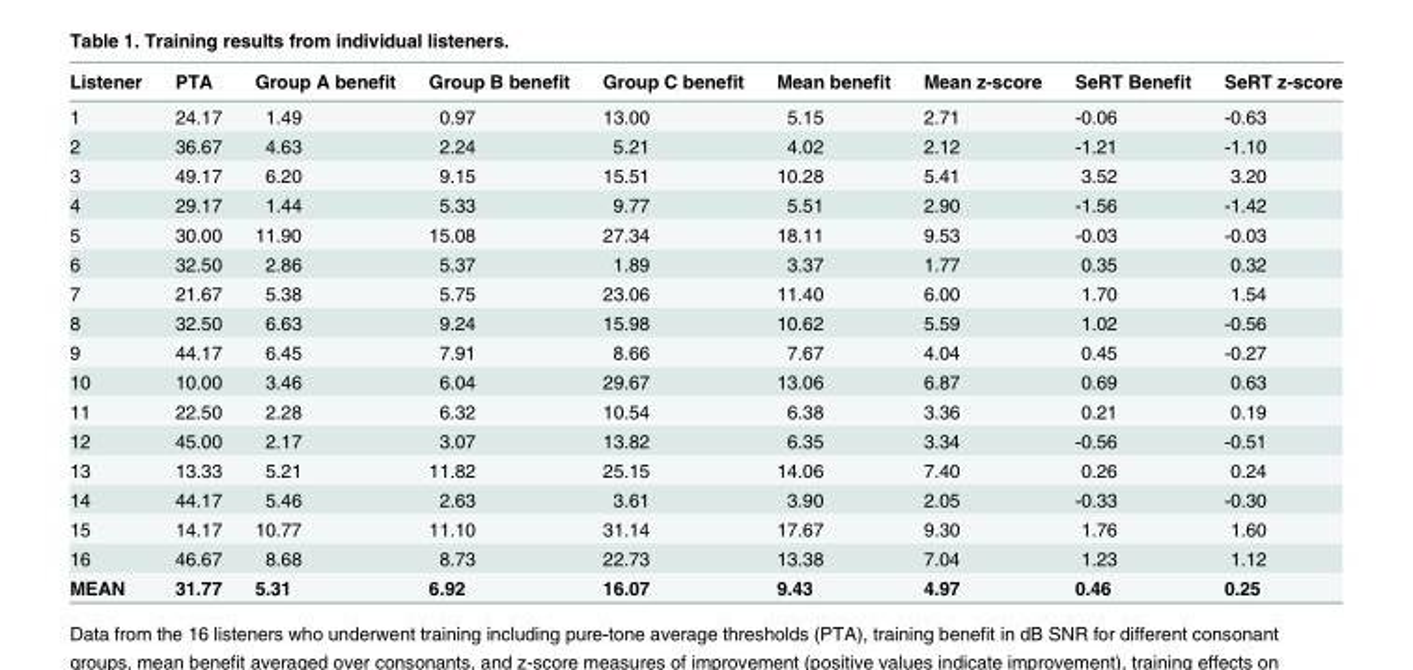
<table><thead><tr><td>Listener</td><td>PTA</td><td>Group A benefit</td><td>Group B benefit</td><td>Group C benefit</td><td>Mean benefit</td><td>Mean z-score</td><td>SeRT Benefit</td><td>SeRT z-score</td></tr></thead><tbody><tr><td>1</td><td>24.17</td><td>1.49</td><td>0.97</td><td>13.00</td><td>5.15</td><td>2.71</td><td>-0.06</td><td>-0.63</td></tr><tr><td>2</td><td>36.67</td><td>4.63</td><td>2.24</td><td>5.21</td><td>4.02</td><td>2.12</td><td>-1.21</td><td>-1.10</td></tr><tr><td>3</td><td>49.17</td><td>6.20</td><td>9.15</td><td>15.51</td><td>10.28</td><td>5.41</td><td>3.52</td><td>3.20</td></tr><tr><td>4</td><td>29.17</td><td>1.44</td><td>5.33</td><td>9.77</td><td>5.51</td><td>2.90</td><td>-1.56</td><td>-1.42</td></tr><tr><td>5</td><td>30.00</td><td>11.90</td><td>15.08</td><td>27.34</td><td>18.11</td><td>9.53</td><td>-0.03</td><td>-0.03</td></tr><tr><td>6</td><td>32.50</td><td>2.86</td><td>5.37</td><td>1.89</td><td>3.37</td><td>1.77</td><td>0.35</td><td>0.32</td></tr><tr><td>7</td><td>21.67</td><td>5.38</td><td>5.75</td><td>23.06</td><td>11.40</td><td>6.00</td><td>1.70</td><td>1.54</td></tr><tr><td>8</td><td>32.50</td><td>6.63</td><td>9.24</td><td>15.98</td><td>10.62</td><td>5.59</td><td>1.02</td><td>-0.56</td></tr><tr><td>9</td><td>44.17</td><td>6.45</td><td>7.91</td><td>8.66</td><td>7.67</td><td>4.04</td><td>0.45</td><td>-0.27</td></tr><tr><td>10</td><td>10.00</td><td>3.46</td><td>6.04</td><td>29.67</td><td>13.06</td><td>6.87</td><td>0.69</td><td>0.63</td></tr><tr><td>11</td><td>22.50</td><td>2.28</td><td>6.32</td><td>10.54</td><td>6.38</td><td>3.36</td><td>0.21</td><td>0.19</td></tr><tr><td>12</td><td>45.00</td><td>2.17</td><td>3.07</td><td>13.82</td><td>6.35</td><td>3.34</td><td>-0.56</td><td>-0.51</td></tr><tr><td>13</td><td>13.33</td><td>5.21</td><td>11.82</td><td>25.15</td><td>14.06</td><td>7.40</td><td>0.26</td><td>0.24</td></tr><tr><td>14</td><td>44.17</td><td>5.46</td><td>2.63</td><td>3.61</td><td>3.90</td><td>2.05</td><td>-0.33</td><td>-0.30</td></tr><tr><td>15</td><td>14.17</td><td>10.77</td><td>11.10</td><td>31.14</td><td>17.67</td><td>9.30</td><td>1.76</td><td>1.60</td></tr><tr><td>16</td><td>46.67</td><td>8.68</td><td>8.73</td><td>22.73</td><td>13.38</td><td>7.04</td><td>1.23</td><td>1.12</td></tr><tr><td>MEAN</td><td>31.77</td><td>5.31</td><td>6.92</td><td>16.07</td><td>9.43</td><td>4.97</td><td>0.46</td><td>0.25</td></tr></tbody></table>